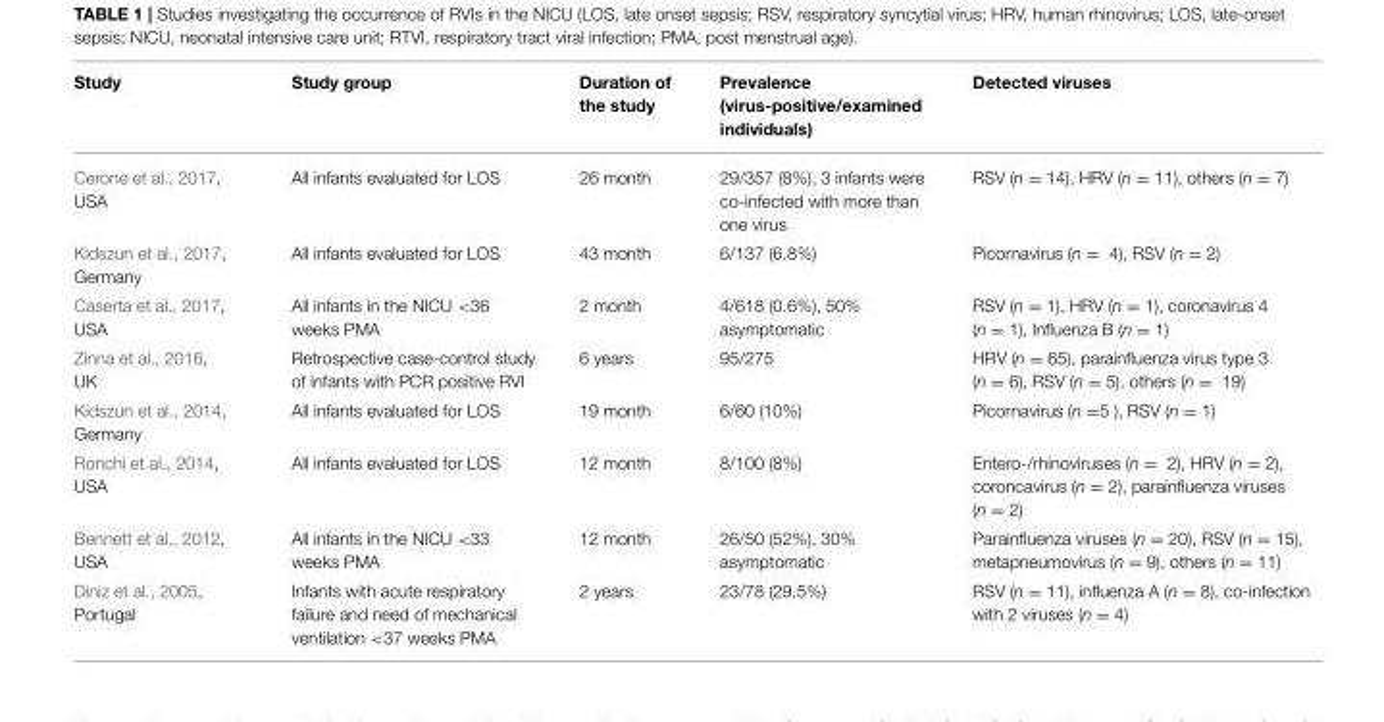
<table><thead><tr><td>Study</td><td>Study group</td><td>Duration of the study</td><td>Prevalence (virus-positive/examined individuals)</td><td>Detected viruses</td></tr></thead><tbody><tr><td>Cerone et al., 2017, USA</td><td>All infants evaluated for LOS</td><td>26 month</td><td>29/357 (8%), 3 infants were co-infected with more than one virus</td><td>RSV (n = 14), HRV (n = 11), others (n = 7)</td></tr><tr><td>Kidszun et al., 2017, Germany</td><td>All infants evaluated for LOS</td><td>43 month</td><td>6/137 (6.8%)</td><td>Picornavirus (n = 4), RSV (n = 2)</td></tr><tr><td>Caserta et al., 2017, USA</td><td>All infants in the NICU &lt;36 weeks PMA</td><td>2 month</td><td>4/618 (0.6%), 50% asymptomatic</td><td>RSV (n = 1), HRV (n = 1), coronavirus 4 (n = 1), Influenza B (n = 1)</td></tr><tr><td>Zinna et al., 2016, UK</td><td>Retrospective case-control study of infants with PCR positive RVI</td><td>6 years</td><td>95/275</td><td>HRV (n = 65), parainfluenza virus type 3 (n = 6), RSV (n = 5), others (n = 19)</td></tr><tr><td>Kidszun et al., 2014, Germany</td><td>All infants evaluated for LOS</td><td>19 month</td><td>6/60 (10%)</td><td>Picornavirus (n =5 ), RSV (n = 1)</td></tr><tr><td>Ronchi et al., 2014, USA</td><td>All infants evaluated for LOS</td><td>12 month</td><td>8/100 (8%)</td><td>Entero-/rhinoviruses (n = 2), HRV (n = 2), coroncavirus (n = 2), parainfluenza viruses (n = 2)</td></tr><tr><td>Bennett et al., 2012, USA</td><td>All infants in the NICU &lt;33 weeks PMA</td><td>12 month</td><td>26/50 (52%), 30% asymptomatic</td><td>Parainfluenza viruses (n = 20), RSV (n = 15), metapneumovirus (n = 9), others (n = 11)</td></tr><tr><td>Diniz et al., 2005, Portugal</td><td>Infants with acute respiratory failure and need of mechanical ventilation &lt;37 weeks PMA</td><td>2 years</td><td>23/78 (29.5%)</td><td>RSV (n = 11), influenza A (n = 8), co-infection with 2 viruses (n = 4)</td></tr></tbody></table>